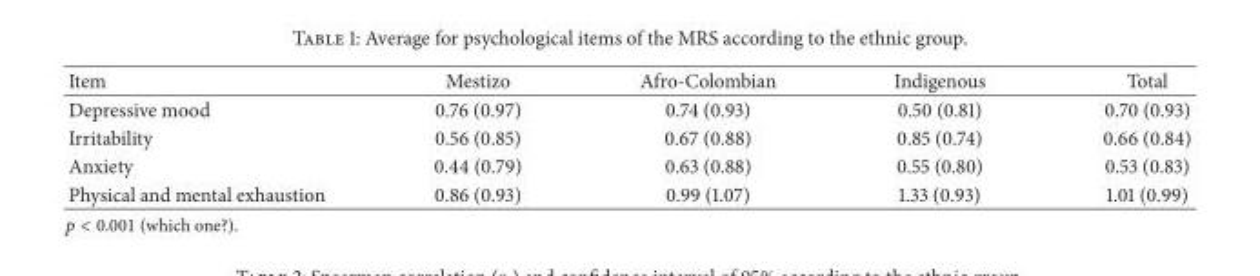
<table><thead><tr><td>Item</td><td>Mestizo</td><td>Afro-Colombian</td><td>Indigenous</td><td>Total</td></tr></thead><tbody><tr><td>Depressive mood</td><td>0.76 (0.97)</td><td>0.74 (0.93)</td><td>0.50 (0.81)</td><td>0.70 (0.93)</td></tr><tr><td>Irritability</td><td>0.56 (0.85)</td><td>0.67 (0.88)</td><td>0.85 (0.74)</td><td>0.66 (0.84)</td></tr><tr><td>Anxiety</td><td>0.44 (0.79)</td><td>0.63 (0.88)</td><td>0.55 (0.80)</td><td>0.53 (0.83)</td></tr><tr><td>Physical and mental exhaustion</td><td>0.86 (0.93)</td><td>0.99 (1.07)</td><td>1.33 (0.93)</td><td>1.01 (0.99)</td></tr></tbody></table>